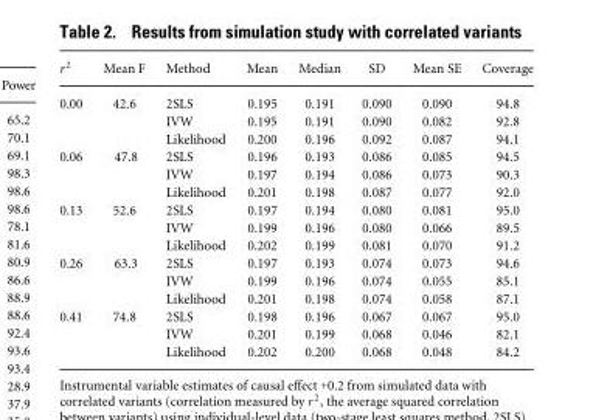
<table><thead><tr><td>r <sup>2</sup></td><td>Mean F</td><td>Method</td><td>Mean</td><td>Median</td><td>SD</td><td>Mean SE</td><td>Coverage</td></tr></thead><tbody><tr><td rowspan="3">0.00</td><td>42.6</td><td>2SLS</td><td>0.195</td><td>0.191</td><td>0.090</td><td>0.090</td><td>94.8</td></tr><tr><td></td><td>IVW</td><td>0.195</td><td>0.191</td><td>0.090</td><td>0.082</td><td>92.8</td></tr><tr><td></td><td>Likelihood</td><td>0.200</td><td>0.196</td><td>0.092</td><td>0.087</td><td>94.1</td></tr><tr><td rowspan="3">0.06</td><td>47.8</td><td>2SLS</td><td>0.196</td><td>0.193</td><td>0.086</td><td>0.085</td><td>94.5</td></tr><tr><td></td><td>IVW</td><td>0.197</td><td>0.194</td><td>0.086</td><td>0.073</td><td>90.3</td></tr><tr><td></td><td>Likelihood</td><td>0.201</td><td>0.198</td><td>0.087</td><td>0.077</td><td>92.0</td></tr><tr><td rowspan="3">0.13</td><td>52.6</td><td>2SLS</td><td>0.197</td><td>0.194</td><td>0.080</td><td>0.081</td><td>95.0</td></tr><tr><td></td><td>IVW</td><td>0.199</td><td>0.196</td><td>0.080</td><td>0.066</td><td>89.5</td></tr><tr><td></td><td>Likelihood</td><td>0.202</td><td>0.199</td><td>0.081</td><td>0.070</td><td>91.2</td></tr><tr><td rowspan="3">0.26</td><td>63.3</td><td>2SLS</td><td>0.197</td><td>0.193</td><td>0.074</td><td>0.073</td><td>94.6</td></tr><tr><td></td><td>IVW</td><td>0.199</td><td>0.196</td><td>0.074</td><td>0.055</td><td>85.1</td></tr><tr><td></td><td>Likelihood</td><td>0.201</td><td>0.198</td><td>0.074</td><td>0.058</td><td>87.1</td></tr><tr><td rowspan="3">0.41</td><td>74.8</td><td>2SLS</td><td>0.198</td><td>0.196</td><td>0.067</td><td>0.067</td><td>95.0</td></tr><tr><td></td><td>IVW</td><td>0.201</td><td>0.199</td><td>0.068</td><td>0.046</td><td>82.1</td></tr><tr><td></td><td>Likelihood</td><td>0.202</td><td>0.200</td><td>0.068</td><td>0.048</td><td>84.2</td></tr></tbody></table>